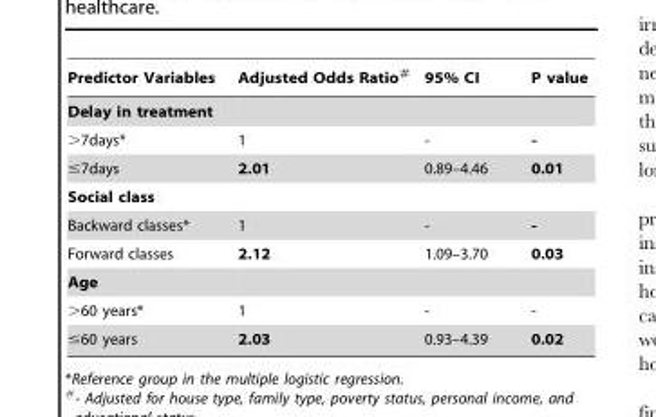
<table><thead><tr><td>Predictor Variables</td><td>Adjusted Odds Ratio#</td><td>95% CI</td><td>P value</td></tr></thead><tbody><tr><td colspan="4">Delay in treatment</td></tr><tr><td>&gt;7days*</td><td>1</td><td>-</td><td>-</td></tr><tr><td>≤7days</td><td>2.01</td><td>0.89–4.46</td><td>0.01</td></tr><tr><td colspan="4">Social class</td></tr><tr><td>Backward classes*</td><td>1</td><td>-</td><td>-</td></tr><tr><td>Forward classes</td><td>2.12</td><td>1.09–3.70</td><td>0.03</td></tr><tr><td colspan="4">Age</td></tr><tr><td>&gt;60 years*</td><td>1</td><td>-</td><td>-</td></tr><tr><td>≤60 years</td><td>2.03</td><td>0.93–4.39</td><td>0.02</td></tr></tbody></table>